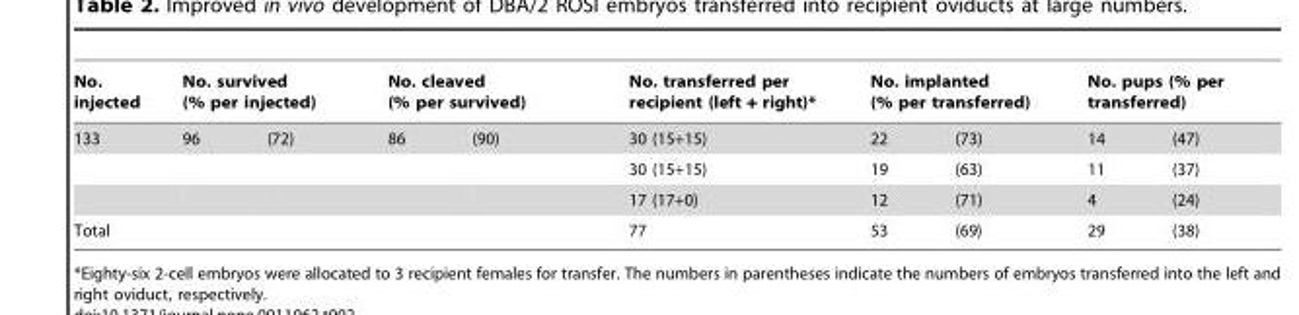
<table><thead><tr><td rowspan="2">No. injected 133</td><td colspan="2">No. survived (% per injected)</td><td colspan="2">No. cleaved (% per survived)</td><td rowspan="2">No. transferred per recipient (left + right)* 30 (15+15)</td><td colspan="2">No. implanted (% per transferred)</td><td colspan="2">No. pups (% per transferred)</td></tr><tr><td>96</td><td>(72)</td><td>86</td><td>(90)</td><td>22</td><td>(73)</td><td>14</td><td>(47)</td></tr></thead><tbody><tr><td></td><td></td><td></td><td></td><td></td><td>30 (15+15)</td><td>19</td><td>(63)</td><td>11</td><td>(37)</td></tr><tr><td></td><td></td><td></td><td></td><td></td><td>17 (17+0)</td><td>12</td><td>(71)</td><td>4</td><td>(24)</td></tr><tr><td>Total</td><td></td><td></td><td></td><td></td><td>77</td><td>53</td><td>(69)</td><td>29</td><td>(38)</td></tr></tbody></table>